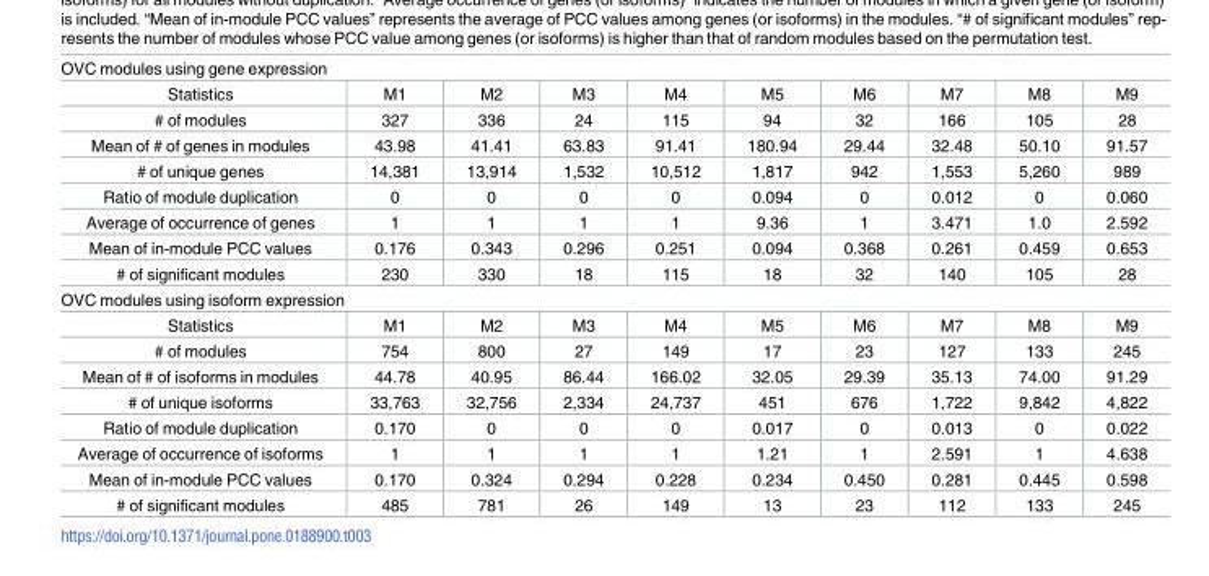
<table><tbody><tr><td colspan="10">OVC modules using gene expression</td></tr><tr><td>Statistics</td><td>M1</td><td>M2</td><td>M3</td><td>M4</td><td>M5</td><td>M6</td><td>M7</td><td>M8</td><td>M9</td></tr><tr><td># of modules</td><td>327</td><td>336</td><td>24</td><td>115</td><td>94</td><td>32</td><td>166</td><td>105</td><td>28</td></tr><tr><td>Mean of # of genes in modules</td><td>43.98</td><td>41.41</td><td>63.83</td><td>91.41</td><td>180.94</td><td>29.44</td><td>32.48</td><td>50.10</td><td>91.57</td></tr><tr><td># of unique genes</td><td>14,381</td><td>13,914</td><td>1,532</td><td>10,512</td><td>1,817</td><td>942</td><td>1,553</td><td>5,260</td><td>989</td></tr><tr><td>Ratio of module duplication</td><td>0</td><td>0</td><td>0</td><td>0</td><td>0.094</td><td>0</td><td>0.012</td><td>0</td><td>0.060</td></tr><tr><td>Average of occurrence of genes</td><td>1</td><td>1</td><td>1</td><td>1</td><td>9.36</td><td>1</td><td>3.471</td><td>1.0</td><td>2.592</td></tr><tr><td>Mean of in-module PCC values</td><td>0.176</td><td>0.343</td><td>0.296</td><td>0.251</td><td>0.094</td><td>0.368</td><td>0.261</td><td>0.459</td><td>0.653</td></tr><tr><td># of significant modules</td><td>230</td><td>330</td><td>18</td><td>115</td><td>18</td><td>32</td><td>140</td><td>105</td><td>28</td></tr><tr><td colspan="10">OVC modules using isoform expression</td></tr><tr><td>Statistics</td><td>M1</td><td>M2</td><td>M3</td><td>M4</td><td>M5</td><td>M6</td><td>M7</td><td>M8</td><td>M9</td></tr><tr><td># of modules</td><td>754</td><td>800</td><td>27</td><td>149</td><td>17</td><td>23</td><td>127</td><td>133</td><td>245</td></tr><tr><td>Mean of # of isoforms in modules</td><td>44.78</td><td>40.95</td><td>86.44</td><td>166.02</td><td>32.05</td><td>29.39</td><td>35.13</td><td>74.00</td><td>91.29</td></tr><tr><td># of unique isoforms</td><td>33,763</td><td>32,756</td><td>2,334</td><td>24,737</td><td>451</td><td>676</td><td>1,722</td><td>9,842</td><td>4,822</td></tr><tr><td>Ratio of module duplication</td><td>0.170</td><td>0</td><td>0</td><td>0</td><td>0.017</td><td>0</td><td>0.013</td><td>0</td><td>0.022</td></tr><tr><td>Average of occurrence of isoforms</td><td>1</td><td>1</td><td>1</td><td>1</td><td>1.21</td><td>1</td><td>2.591</td><td>1</td><td>4.638</td></tr><tr><td>Mean of in-module PCC values</td><td>0.170</td><td>0.324</td><td>0.294</td><td>0.228</td><td>0.234</td><td>0.450</td><td>0.281</td><td>0.445</td><td>0.598</td></tr><tr><td># of significant modules</td><td>485</td><td>781</td><td>26</td><td>149</td><td>13</td><td>23</td><td>112</td><td>133</td><td>245</td></tr></tbody></table>